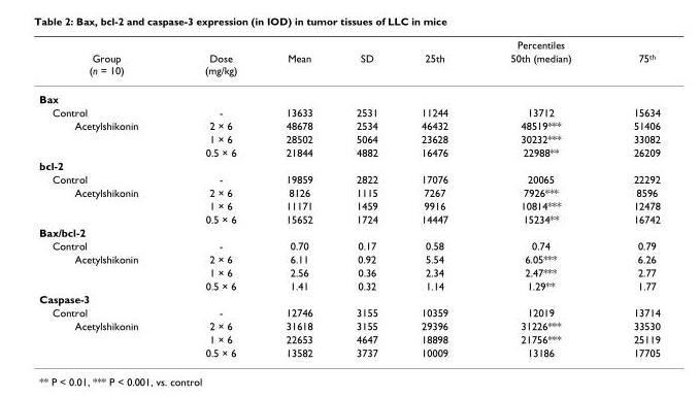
<table><thead><tr><td rowspan="2">Group (n = 10)</td><td rowspan="2">Dose (mg/kg)</td><td rowspan="2">Mean</td><td rowspan="2">SD</td><td colspan="3">Percentiles</td></tr><tr><td>25th</td><td>50th (median)</td><td>75<sup>th</sup></td></tr></thead><tbody><tr><td colspan="7">Bax</td></tr><tr><td>Control</td><td>-</td><td>13633</td><td>2531</td><td>11244</td><td>13712</td><td>15634</td></tr><tr><td rowspan="3">Acetylshikonin</td><td>2 × 6</td><td>48678</td><td>2534</td><td>46432</td><td>48519***</td><td>51406</td></tr><tr><td>1 × 6</td><td>28502</td><td>5064</td><td>23628</td><td>30232***</td><td>33082</td></tr><tr><td>0.5 × 6</td><td>21844</td><td>4882</td><td>16476</td><td>22988**</td><td>26209</td></tr><tr><td colspan="7">bcl-2</td></tr><tr><td>Control</td><td>-</td><td>19859</td><td>2822</td><td>17076</td><td>20065</td><td>22292</td></tr><tr><td rowspan="3">Acetylshikonin</td><td>2 × 6</td><td>8126</td><td>1115</td><td>7267</td><td>7926***</td><td>8596</td></tr><tr><td>1 × 6</td><td>11171</td><td>1459</td><td>9916</td><td>10814***</td><td>12478</td></tr><tr><td>0.5 × 6</td><td>15652</td><td>1724</td><td>14447</td><td>15234**</td><td>16742</td></tr><tr><td colspan="7">Bax/bcl-2</td></tr><tr><td>Control</td><td>-</td><td>0.70</td><td>0.17</td><td>0.58</td><td>0.74</td><td>0.79</td></tr><tr><td rowspan="3">Acetylshikonin</td><td>2 × 6</td><td>6.11</td><td>0.92</td><td>5.54</td><td>6.05***</td><td>6.26</td></tr><tr><td>1 × 6</td><td>2.56</td><td>0.36</td><td>2.34</td><td>2.47***</td><td>2.77</td></tr><tr><td>0.5 × 6</td><td>1.41</td><td>0.32</td><td>1.14</td><td>1.29**</td><td>1.77</td></tr><tr><td colspan="7">Caspase-3</td></tr><tr><td>Control</td><td>-</td><td>12746</td><td>3155</td><td>10359</td><td>12019</td><td>13714</td></tr><tr><td rowspan="3">Acetylshikonin</td><td>2 × 6</td><td>31618</td><td>3155</td><td>29396</td><td>31226***</td><td>33530</td></tr><tr><td>1 × 6</td><td>22653</td><td>4647</td><td>18898</td><td>21756***</td><td>25119</td></tr><tr><td>0.5 × 6</td><td>13582</td><td>3737</td><td>10009</td><td>13186</td><td>17705</td></tr></tbody></table>